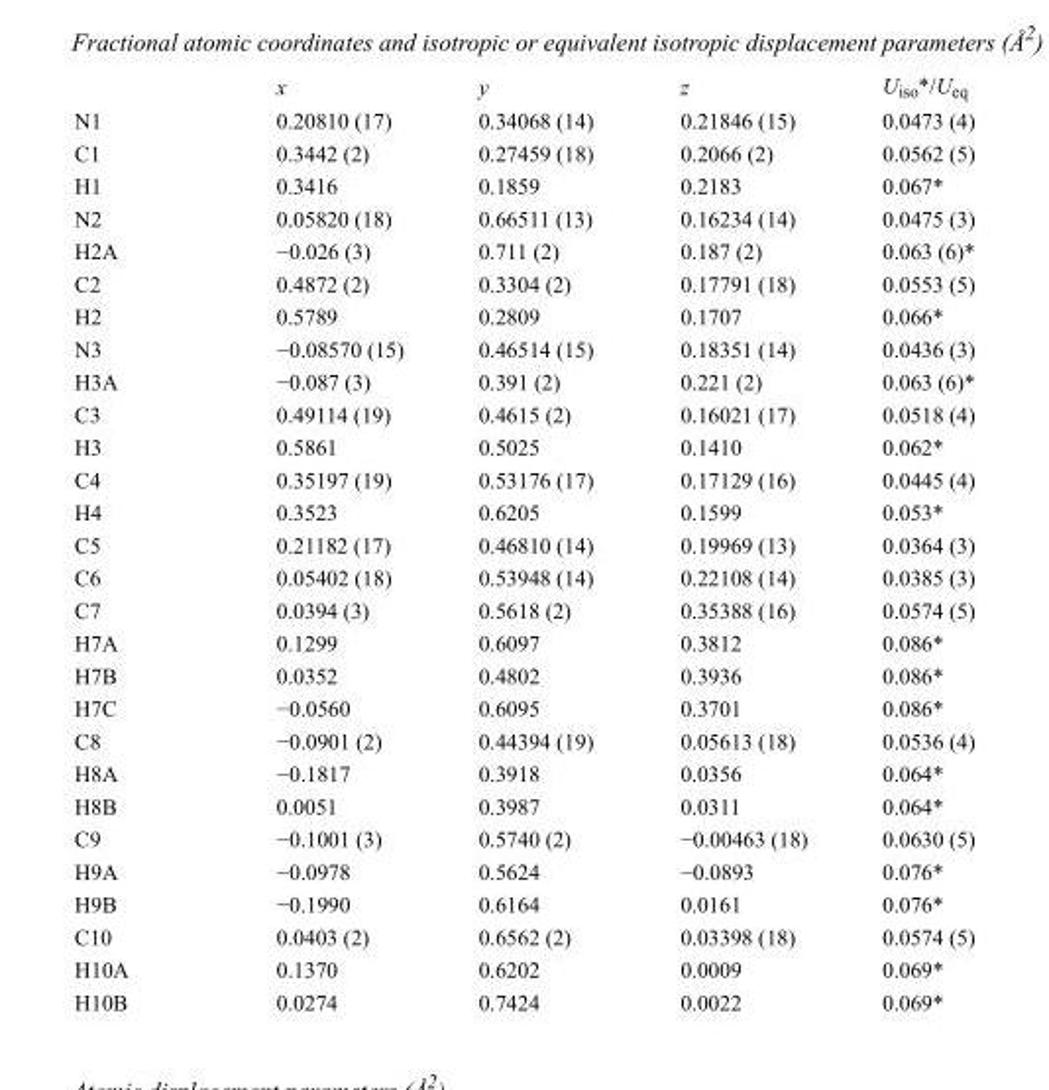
<table><thead><tr><td></td><td>x</td><td>y</td><td>z</td><td>U<sub>iso</sub>*/U<sub>eq</sub></td></tr></thead><tbody><tr><td>N1</td><td>0.20810 (17)</td><td>0.34068 (14)</td><td>0.21846 (15)</td><td>0.0473 (4)</td></tr><tr><td>C1</td><td>0.3442 (2)</td><td>0.27459 (18)</td><td>0.2066 (2)</td><td>0.0562 (5)</td></tr><tr><td>H1</td><td>0.3416</td><td>0.1859</td><td>0.2183</td><td>0.067*</td></tr><tr><td>N2</td><td>0.05820 (18)</td><td>0.66511 (13)</td><td>0.16234 (14)</td><td>0.0475 (3)</td></tr><tr><td>H2A</td><td>−0.026 (3)</td><td>0.711 (2)</td><td>0.187 (2)</td><td>0.063 (6)*</td></tr><tr><td>C2</td><td>0.4872 (2)</td><td>0.3304 (2)</td><td>0.17791 (18)</td><td>0.0553 (5)</td></tr><tr><td>H2</td><td>0.5789</td><td>0.2809</td><td>0.1707</td><td>0.066*</td></tr><tr><td>N3</td><td>−0.08570 (15)</td><td>0.46514 (15)</td><td>0.18351 (14)</td><td>0.0436 (3)</td></tr><tr><td>H3A</td><td>−0.087 (3)</td><td>0.391 (2)</td><td>0.221 (2)</td><td>0.063 (6)*</td></tr><tr><td>C3</td><td>0.49114 (19)</td><td>0.4615 (2)</td><td>0.16021 (17)</td><td>0.0518 (4)</td></tr><tr><td>H3</td><td>0.5861</td><td>0.5025</td><td>0.1410</td><td>0.062*</td></tr><tr><td>C4</td><td>0.35197 (19)</td><td>0.53176 (17)</td><td>0.17129 (16)</td><td>0.0445 (4)</td></tr><tr><td>H4</td><td>0.3523</td><td>0.6205</td><td>0.1599</td><td>0.053*</td></tr><tr><td>C5</td><td>0.21182 (17)</td><td>0.46810 (14)</td><td>0.19969 (13)</td><td>0.0364 (3)</td></tr><tr><td>C6</td><td>0.05402 (18)</td><td>0.53948 (14)</td><td>0.22108 (14)</td><td>0.0385 (3)</td></tr><tr><td>C7</td><td>0.0394 (3)</td><td>0.5618 (2)</td><td>0.35388 (16)</td><td>0.0574 (5)</td></tr><tr><td>H7A</td><td>0.1299</td><td>0.6097</td><td>0.3812</td><td>0.086*</td></tr><tr><td>H7B</td><td>0.0352</td><td>0.4802</td><td>0.3936</td><td>0.086*</td></tr><tr><td>H7C</td><td>−0.0560</td><td>0.6095</td><td>0.3701</td><td>0.086*</td></tr><tr><td>C8</td><td>−0.0901 (2)</td><td>0.44394 (19)</td><td>0.05613 (18)</td><td>0.0536 (4)</td></tr><tr><td>H8A</td><td>−0.1817</td><td>0.3918</td><td>0.0356</td><td>0.064*</td></tr><tr><td>H8B</td><td>0.0051</td><td>0.3987</td><td>0.0311</td><td>0.064*</td></tr><tr><td>C9</td><td>−0.1001 (3)</td><td>0.5740 (2)</td><td>−0.00463 (18)</td><td>0.0630 (5)</td></tr><tr><td>H9A</td><td>−0.0978</td><td>0.5624</td><td>−0.0893</td><td>0.076*</td></tr><tr><td>H9B</td><td>−0.1990</td><td>0.6164</td><td>0.0161</td><td>0.076*</td></tr><tr><td>C10</td><td>0.0403 (2)</td><td>0.6562 (2)</td><td>0.03398 (18)</td><td>0.0574 (5)</td></tr><tr><td>H10A</td><td>0.1370</td><td>0.6202</td><td>0.0009</td><td>0.069*</td></tr><tr><td>H10B</td><td>0.0274</td><td>0.7424</td><td>0.0022</td><td>0.069*</td></tr></tbody></table>